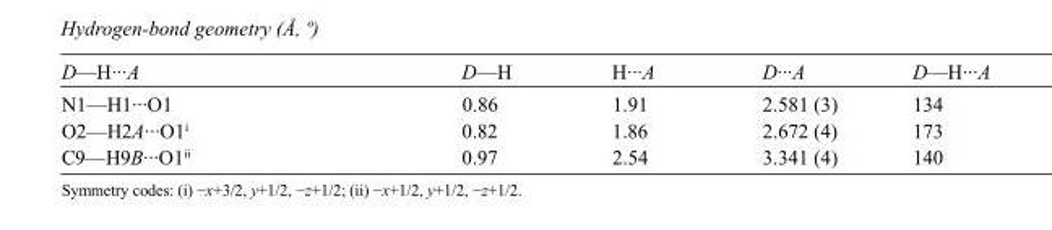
<table><tbody><tr><td>D—H···A</td><td>D—H</td><td>H···A</td><td>D···A</td><td>D—H···A</td></tr><tr><td>N1—H1···O1</td><td>0.86</td><td>1.91</td><td>2.581 (3)</td><td>134</td></tr><tr><td>O2—H2A···O1<sup>i</sup></td><td>0.82</td><td>1.86</td><td>2.672 (4)</td><td>173</td></tr><tr><td>C9—H9B···O1<sup>ii</sup></td><td>0.97</td><td>2.54</td><td>3.341 (4)</td><td>140</td></tr></tbody></table>